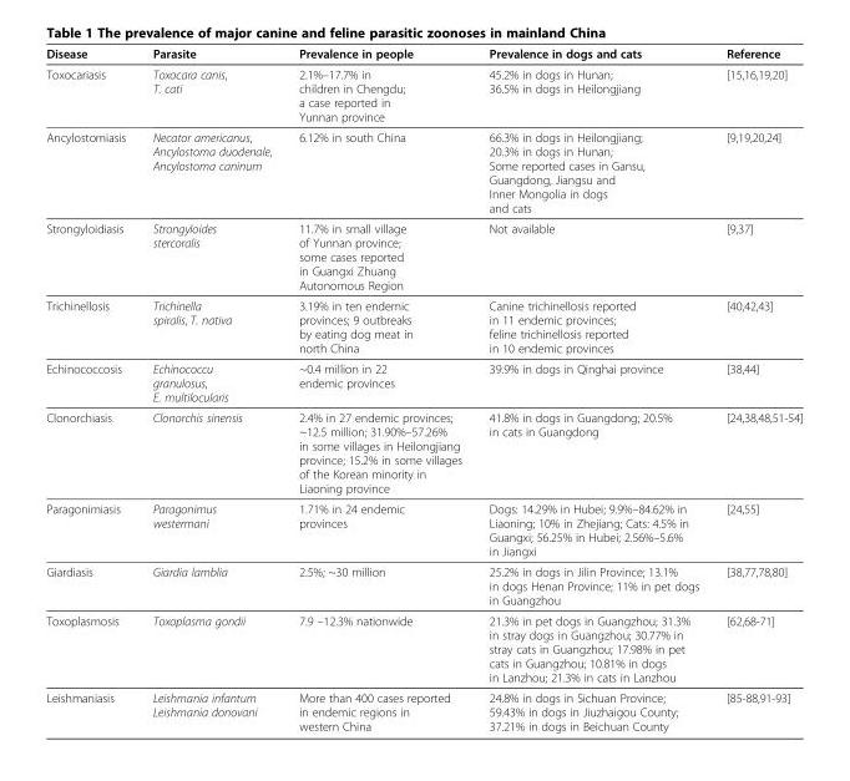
<table><thead><tr><td>Disease</td><td>Parasite</td><td>Prevalence in people</td><td>Prevalence in dogs and cats</td><td>Reference</td></tr></thead><tbody><tr><td>Toxocariasis</td><td>Toxocara canis, T. cati</td><td>2.1%–17.7% in children in Chengdu; a case reported in Yunnan province</td><td>45.2% in dogs in Hunan; 36.5% in dogs in Heilongjiang</td><td>[15,16,19,20]</td></tr><tr><td>Ancylostomiasis</td><td>Necator americanus, Ancylostoma duodenale, Ancylostoma caninum</td><td>6.12% in south China</td><td>66.3% in dogs in Heilongjiang; 20.3% in dogs in Hunan; Some reported cases in Gansu, Guangdong, Jiangsu and Inner Mongolia in dogs and cats</td><td>[9,19,20,24]</td></tr><tr><td>Strongyloidiasis</td><td>Strongyloides stercoralis</td><td>11.7% in small village of Yunnan province; some cases reported in Guangxi Zhuang Autonomous Region</td><td>Not available</td><td>[9,37]</td></tr><tr><td>Trichinellosis</td><td>Trichinella spiralis, T. nativa</td><td>3.19% in ten endemic provinces; 9 outbreaks by eating dog meat in north China</td><td>Canine trichinellosis reported in 11 endemic provinces; feline trichinellosis reported in 10 endemic provinces</td><td>[40,42,43]</td></tr><tr><td>Echinococcosis</td><td>Echinococcu granulosus, E. multilocularis</td><td>~0.4 million in 22 endemic provinces</td><td>39.9% in dogs in Qinghai province</td><td>[38,44]</td></tr><tr><td>Clonorchiasis</td><td>Clonorchis sinensis</td><td>2.4% in 27 endemic provinces; ~12.5 million; 31.90%–57.26% in some villages in Heilongjiang province; 15.2% in some villages of the Korean minority in Liaoning province</td><td>41.8% in dogs in Guangdong; 20.5% in cats in Guangdong</td><td>[24,38,48,51-54]</td></tr><tr><td>Paragonimiasis</td><td>Paragonimus westermani</td><td>1.71% in 24 endemic provinces</td><td>Dogs: 14.29% in Hubei; 9.9%–84.62% in Liaoning; 10% in Zhejiang; Cats: 4.5% in Guangxi; 56.25% in Hubei; 2.56%–5.6% in Jiangxi</td><td>[24,55]</td></tr><tr><td>Giardiasis</td><td>Giardia lamblia</td><td>2.5%; ~30 million</td><td>25.2% in dogs in Jilin Province; 13.1% in dogs Henan Province; 11% in pet dogs in Guangzhou</td><td>[38,77,78,80]</td></tr><tr><td>Toxoplasmosis</td><td>Toxoplasma gondii</td><td>7.9 –12.3% nationwide</td><td>21.3% in pet dogs in Guangzhou; 31.3% in stray dogs in Guangzhou; 30.77% in stray cats in Guangzhou; 17.98% in pet cats in Guangzhou; 10.81% in dogs in Lanzhou; 21.3% in cats in Lanzhou</td><td>[62,68-71]</td></tr><tr><td>Leishmaniasis</td><td>Leishmania infantum Leishmania donovani</td><td>More than 400 cases reported in endemic regions in western China</td><td>24.8% in dogs in Sichuan Province; 59.43% in dogs in Jiuzhaigou County; 37.21% in dogs in Beichuan County</td><td>[85-88,91-93]</td></tr></tbody></table>